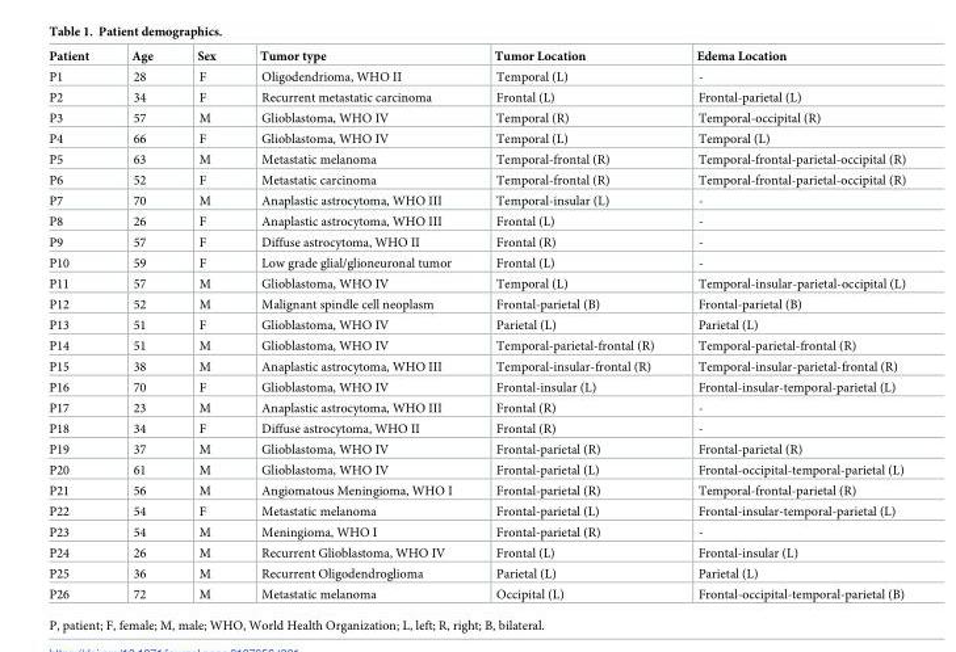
<table><thead><tr><td>Patient</td><td>Age</td><td>Sex</td><td>Tumor type</td><td>Tumor Location</td><td>Edema Location</td></tr></thead><tbody><tr><td>P1</td><td>28</td><td>F</td><td>Oligodendrioma, WHO II</td><td>Temporal (L)</td><td>-</td></tr><tr><td>P2</td><td>34</td><td>F</td><td>Recurrent metastatic carcinoma</td><td>Frontal (L)</td><td>Frontal-parietal (L)</td></tr><tr><td>P3</td><td>57</td><td>M</td><td>Glioblastoma, WHO IV</td><td>Temporal (R)</td><td>Temporal-occipital (R)</td></tr><tr><td>P4</td><td>66</td><td>F</td><td>Glioblastoma, WHO IV</td><td>Temporal (L)</td><td>Temporal (L)</td></tr><tr><td>P5</td><td>63</td><td>M</td><td>Metastatic melanoma</td><td>Temporal-frontal (R)</td><td>Temporal-frontal-parietal-occipital (R)</td></tr><tr><td>P6</td><td>52</td><td>F</td><td>Metastatic carcinoma</td><td>Temporal-frontal (R)</td><td>Temporal-frontal-parietal-occipital (R)</td></tr><tr><td>P7</td><td>70</td><td>M</td><td>Anaplastic astrocytoma, WHO III</td><td>Temporal-insular (L)</td><td>-</td></tr><tr><td>P8</td><td>26</td><td>F</td><td>Anaplastic astrocytoma, WHO III</td><td>Frontal (L)</td><td>-</td></tr><tr><td>P9</td><td>57</td><td>F</td><td>Diffuse astrocytoma, WHO II</td><td>Frontal (R)</td><td>-</td></tr><tr><td>P10</td><td>59</td><td>F</td><td>Low grade glial/glioneuronal tumor</td><td>Frontal (L)</td><td>-</td></tr><tr><td>P11</td><td>57</td><td>M</td><td>Glioblastoma, WHO IV</td><td>Temporal (L)</td><td>Temporal-insular-parietal-occipital (L)</td></tr><tr><td>P12</td><td>52</td><td>M</td><td>Malignant spindle cell neoplasm</td><td>Frontal-parietal (B)</td><td>Frontal-parietal (B)</td></tr><tr><td>P13</td><td>51</td><td>F</td><td>Glioblastoma, WHO IV</td><td>Parietal (L)</td><td>Parietal (L)</td></tr><tr><td>P14</td><td>51</td><td>M</td><td>Glioblastoma, WHO IV</td><td>Temporal-parietal-frontal (R)</td><td>Temporal-parietal-frontal (R)</td></tr><tr><td>P15</td><td>38</td><td>M</td><td>Anaplastic astrocytoma, WHO III</td><td>Temporal-insular-frontal (R)</td><td>Temporal-insular-parietal-frontal (R)</td></tr><tr><td>P16</td><td>70</td><td>F</td><td>Glioblastoma, WHO IV</td><td>Frontal-insular (L)</td><td>Frontal-insular-temporal-parietal (L)</td></tr><tr><td>P17</td><td>23</td><td>M</td><td>Anaplastic astrocytoma, WHO III</td><td>Frontal (R)</td><td>-</td></tr><tr><td>P18</td><td>34</td><td>F</td><td>Diffuse astrocytoma, WHO II</td><td>Frontal (R)</td><td>-</td></tr><tr><td>P19</td><td>37</td><td>M</td><td>Glioblastoma, WHO IV</td><td>Frontal-parietal (R)</td><td>Frontal-parietal (R)</td></tr><tr><td>P20</td><td>61</td><td>M</td><td>Glioblastoma, WHO IV</td><td>Frontal-parietal (L)</td><td>Frontal-occipital-temporal-parietal (L)</td></tr><tr><td>P21</td><td>56</td><td>M</td><td>Angiomatous Meningioma, WHO I</td><td>Frontal-parietal (R)</td><td>Temporal-frontal-parietal (R)</td></tr><tr><td>P22</td><td>54</td><td>F</td><td>Metastatic melanoma</td><td>Frontal-parietal (L)</td><td>Frontal-insular-temporal-parietal (L)</td></tr><tr><td>P23</td><td>54</td><td>M</td><td>Meningioma, WHO I</td><td>Frontal-parietal (R)</td><td>-</td></tr><tr><td>P24</td><td>26</td><td>M</td><td>Recurrent Glioblastoma, WHO IV</td><td>Frontal (L)</td><td>Frontal-insular (L)</td></tr><tr><td>P25</td><td>36</td><td>M</td><td>Recurrent Oligodendroglioma</td><td>Parietal (L)</td><td>Parietal (L)</td></tr><tr><td>P26</td><td>72</td><td>M</td><td>Metastatic melanoma</td><td>Occipital (L)</td><td>Frontal-occipital-temporal-parietal (B)</td></tr></tbody></table>